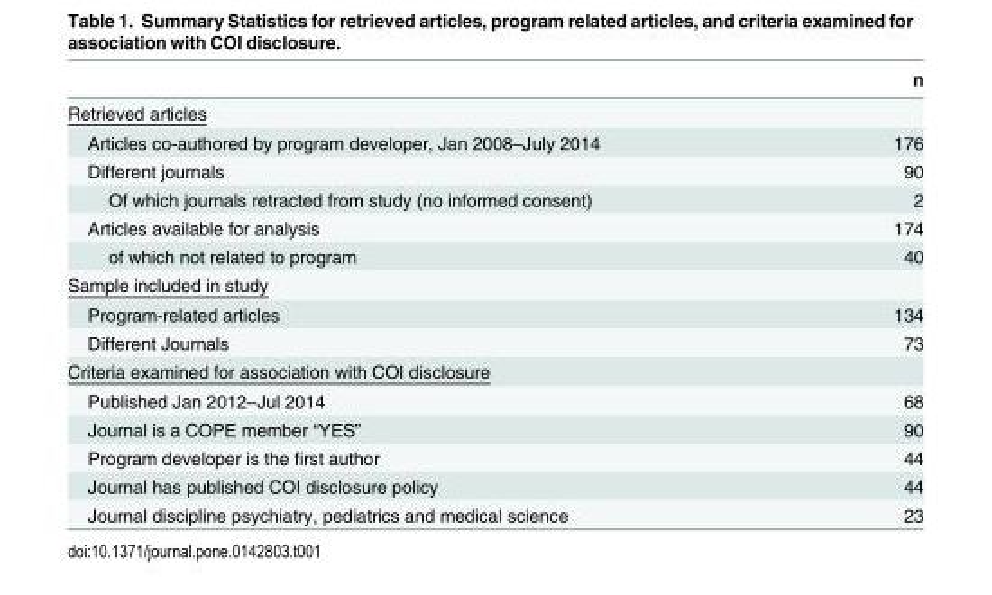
<table><thead><tr><td></td><td>n</td></tr></thead><tbody><tr><td colspan="2">Retrieved articles</td></tr><tr><td>Articles co-authored by program developer, Jan 2008–July 2014</td><td>176</td></tr><tr><td>Different journals</td><td>90</td></tr><tr><td>Of which journals retracted from study (no informed consent)</td><td>2</td></tr><tr><td>Articles available for analysis</td><td>174</td></tr><tr><td>of which not related to program</td><td>40</td></tr><tr><td colspan="2">Sample included in study</td></tr><tr><td>Program-related articles</td><td>134</td></tr><tr><td>Different Journals</td><td>73</td></tr><tr><td colspan="2">Criteria examined for association with COI disclosure</td></tr><tr><td>Published Jan 2012–Jul 2014</td><td>68</td></tr><tr><td>Journal is a COPE member “YES”</td><td>90</td></tr><tr><td>Program developer is the first author</td><td>44</td></tr><tr><td>Journal has published COI disclosure policy</td><td>44</td></tr><tr><td>Journal discipline psychiatry, pediatrics and medical science</td><td>23</td></tr></tbody></table>